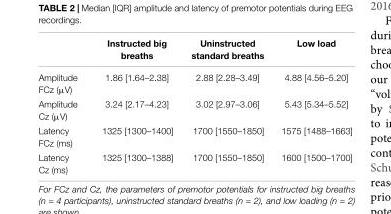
<table><thead><tr><td></td><td>Instructed big breaths</td><td>Uninstructed standard breaths</td><td>Low load</td></tr></thead><tbody><tr><td>Amplitude FCz (µV)</td><td>1.86 [1.64–2.38]</td><td>2.88 [2.28–3.49]</td><td>4.88 [4.56–5.20]</td></tr><tr><td>Amplitude Cz (µV)</td><td>3.24 [2.17–4.23]</td><td>3.02 [2.97–3.06]</td><td>5.43 [5.34–5.52]</td></tr><tr><td>Latency FCz (ms)</td><td>1325 [1300–1400]</td><td>1700 [1550–1850]</td><td>1575 [1488–1663]</td></tr><tr><td>Latency Cz (ms)</td><td>1325 [1300–1388]</td><td>1700 [1550–1850]</td><td>1600 [1500–1700]</td></tr></tbody></table>